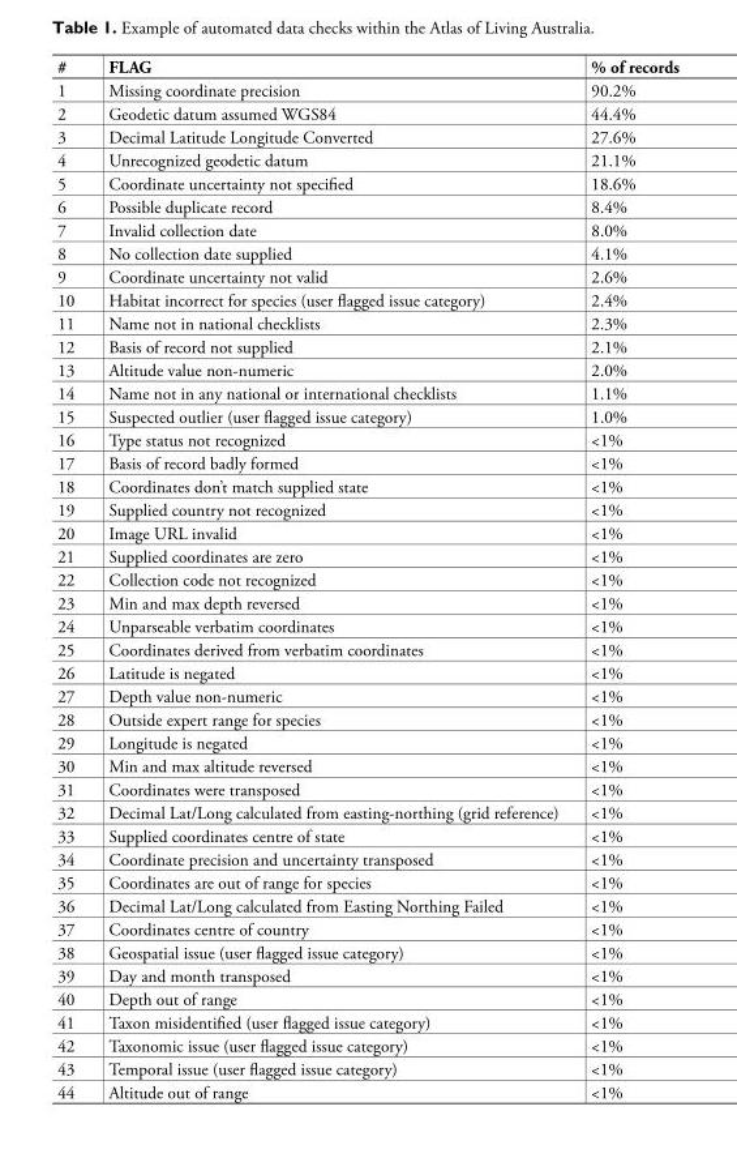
<table><thead><tr><td>#</td><td>FLAG</td><td>% of records</td></tr></thead><tbody><tr><td>1</td><td>Missing coordinate precision</td><td>90.2%</td></tr><tr><td>2</td><td>Geodetic datum assumed WGS84</td><td>44.4%</td></tr><tr><td>3</td><td>Decimal Latitude Longitude Converted</td><td>27.6%</td></tr><tr><td>4</td><td>Unrecognized geodetic datum</td><td>21.1%</td></tr><tr><td>5</td><td>Coordinate uncertainty not specified</td><td>18.6%</td></tr><tr><td>6</td><td>Possible duplicate record</td><td>8.4%</td></tr><tr><td>7</td><td>Invalid collection date</td><td>8.0%</td></tr><tr><td>8</td><td>No collection date supplied</td><td>4.1%</td></tr><tr><td>9</td><td>Coordinate uncertainty not valid</td><td>2.6%</td></tr><tr><td>10</td><td>Habitat incorrect for species (user flagged issue category)</td><td>2.4%</td></tr><tr><td>11</td><td>Name not in national checklists</td><td>2.3%</td></tr><tr><td>12</td><td>Basis of record not supplied</td><td>2.1%</td></tr><tr><td>13</td><td>Altitude value non-numeric</td><td>2.0%</td></tr><tr><td>14</td><td>Name not in any national or international checklists</td><td>1.1%</td></tr><tr><td>15</td><td>Suspected outlier (user flagged issue category)</td><td>1.0%</td></tr><tr><td>16</td><td>Type status not recognized</td><td>&lt;1%</td></tr><tr><td>17</td><td>Basis of record badly formed</td><td>&lt;1%</td></tr><tr><td>18</td><td>Coordinates don’t match supplied state</td><td>&lt;1%</td></tr><tr><td>19</td><td>Supplied country not recognized</td><td>&lt;1%</td></tr><tr><td>20</td><td>Image URL invalid</td><td>&lt;1%</td></tr><tr><td>21</td><td>Supplied coordinates are zero</td><td>&lt;1%</td></tr><tr><td>22</td><td>Collection code not recognized</td><td>&lt;1%</td></tr><tr><td>23</td><td>Min and max depth reversed</td><td>&lt;1%</td></tr><tr><td>24</td><td>Unparseable verbatim coordinates</td><td>&lt;1%</td></tr><tr><td>25</td><td>Coordinates derived from verbatim coordinates</td><td>&lt;1%</td></tr><tr><td>26</td><td>Latitude is negated</td><td>&lt;1%</td></tr><tr><td>27</td><td>Depth value non-numeric</td><td>&lt;1%</td></tr><tr><td>28</td><td>Outside expert range for species</td><td>&lt;1%</td></tr><tr><td>29</td><td>Longitude is negated</td><td>&lt;1%</td></tr><tr><td>30</td><td>Min and max altitude reversed</td><td>&lt;1%</td></tr><tr><td>31</td><td>Coordinates were transposed</td><td>&lt;1%</td></tr><tr><td>32</td><td>Decimal Lat/Long calculated from easting-northing (grid reference)</td><td>&lt;1%</td></tr><tr><td>33</td><td>Supplied coordinates centre of state</td><td>&lt;1%</td></tr><tr><td>34</td><td>Coordinate precision and uncertainty transposed</td><td>&lt;1%</td></tr><tr><td>35</td><td>Coordinates are out of range for species</td><td>&lt;1%</td></tr><tr><td>36</td><td>Decimal Lat/Long calculated from Easting Northing Failed</td><td>&lt;1%</td></tr><tr><td>37</td><td>Coordinates centre of country</td><td>&lt;1%</td></tr><tr><td>38</td><td>Geospatial issue (user flagged issue category)</td><td>&lt;1%</td></tr><tr><td>39</td><td>Day and month transposed</td><td>&lt;1%</td></tr><tr><td>40</td><td>Depth out of range</td><td>&lt;1%</td></tr><tr><td>41</td><td>Taxon misidentified (user flagged issue category)</td><td>&lt;1%</td></tr><tr><td>42</td><td>Taxonomic issue (user flagged issue category)</td><td>&lt;1%</td></tr><tr><td>43</td><td>Temporal issue (user flagged issue category)</td><td>&lt;1%</td></tr><tr><td>44</td><td>Altitude out of range</td><td>&lt;1%</td></tr></tbody></table>